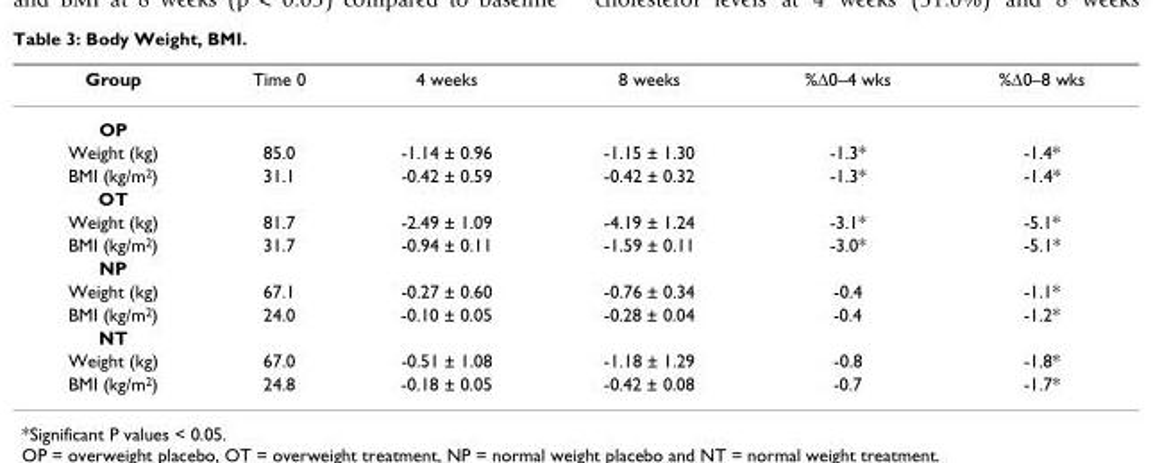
<table><thead><tr><td>Group</td><td>Time 0</td><td>4 weeks</td><td>8 weeks</td><td>%∆0–4 wks</td><td>%∆0–8 wks</td></tr></thead><tbody><tr><td colspan="6">OP</td></tr><tr><td>Weight (kg)</td><td>85.0</td><td>-1.14 ± 0.96</td><td>-1.15 ± 1.30</td><td>-1.3*</td><td>-1.4*</td></tr><tr><td>BMI (kg/m<sup>2</sup>)</td><td>31.1</td><td>-0.42 ± 0.59</td><td>-0.42 ± 0.32</td><td>-1.3*</td><td>-1.4*</td></tr><tr><td colspan="6">OT</td></tr><tr><td>Weight (kg)</td><td>81.7</td><td>-2.49 ± 1.09</td><td>-4.19 ± 1.24</td><td>-3.1*</td><td>-5.1*</td></tr><tr><td>BMI (kg/m<sup>2</sup>)</td><td>31.7</td><td>-0.94 ± 0.11</td><td>-1.59 ± 0.11</td><td>-3.0*</td><td>-5.1*</td></tr><tr><td colspan="6">NP</td></tr><tr><td>Weight (kg)</td><td>67.1</td><td>-0.27 ± 0.60</td><td>-0.76 ± 0.34</td><td>-0.4</td><td>-1.1*</td></tr><tr><td>BMI (kg/m<sup>2</sup>)</td><td>24.0</td><td>-0.10 ± 0.05</td><td>-0.28 ± 0.04</td><td>-0.4</td><td>-1.2*</td></tr><tr><td colspan="6">NT</td></tr><tr><td>Weight (kg)</td><td>67.0</td><td>-0.51 ± 1.08</td><td>-1.18 ± 1.29</td><td>-0.8</td><td>-1.8*</td></tr><tr><td>BMI (kg/m<sup>2</sup>)</td><td>24.8</td><td>-0.18 ± 0.05</td><td>-0.42 ± 0.08</td><td>-0.7</td><td>-1.7*</td></tr></tbody></table>